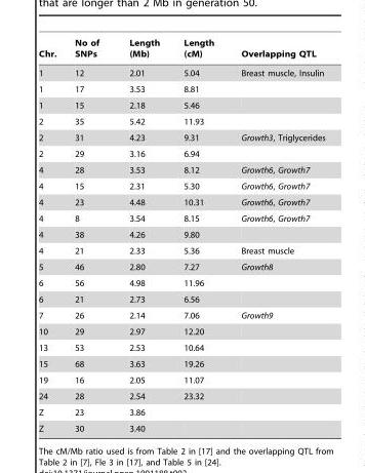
<table><thead><tr><td>Chr.</td><td>No of SNPs</td><td>Length (Mb)</td><td>Length (cM)</td><td>Overlapping QTL</td></tr></thead><tbody><tr><td>1</td><td>12</td><td>2.01</td><td>5.04</td><td>Breast muscle, Insulin</td></tr><tr><td>1</td><td>17</td><td>3.53</td><td>8.81</td><td></td></tr><tr><td>1</td><td>15</td><td>2.18</td><td>5.46</td><td></td></tr><tr><td>2</td><td>35</td><td>5.42</td><td>11.93</td><td></td></tr><tr><td>2</td><td>31</td><td>4.23</td><td>9.31</td><td>Growth3, Triglycerides</td></tr><tr><td>2</td><td>29</td><td>3.16</td><td>6.94</td><td></td></tr><tr><td>4</td><td>28</td><td>3.53</td><td>8.12</td><td>Growth6, Growth7</td></tr><tr><td>4</td><td>15</td><td>2.31</td><td>5.30</td><td>Growth6, Growth7</td></tr><tr><td>4</td><td>23</td><td>4.48</td><td>10.31</td><td>Growth6, Growth7</td></tr><tr><td>4</td><td>8</td><td>3.54</td><td>8.15</td><td>Growth6, Growth7</td></tr><tr><td>4</td><td>38</td><td>4.26</td><td>9.80</td><td></td></tr><tr><td>4</td><td>21</td><td>2.33</td><td>5.36</td><td>Breast muscle</td></tr><tr><td>5</td><td>46</td><td>2.80</td><td>7.27</td><td>Growth8</td></tr><tr><td>6</td><td>56</td><td>4.98</td><td>11.96</td><td></td></tr><tr><td>6</td><td>21</td><td>2.73</td><td>6.56</td><td></td></tr><tr><td>7</td><td>26</td><td>2.14</td><td>7.06</td><td>Growth9</td></tr><tr><td>10</td><td>29</td><td>2.97</td><td>12.20</td><td></td></tr><tr><td>13</td><td>53</td><td>2.53</td><td>10.64</td><td></td></tr><tr><td>15</td><td>68</td><td>3.63</td><td>19.26</td><td></td></tr><tr><td>19</td><td>16</td><td>2.05</td><td>11.07</td><td></td></tr><tr><td>24</td><td>28</td><td>2.54</td><td>23.32</td><td></td></tr><tr><td>Z</td><td>23</td><td>3.86</td><td></td><td></td></tr><tr><td>Z</td><td>30</td><td>3.40</td><td></td><td></td></tr></tbody></table>